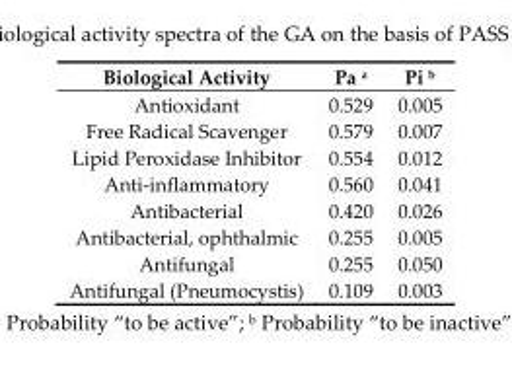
<table><thead><tr><td>Biological Activity</td><td>Pa <sup>a</sup></td><td>Pi <sup>b</sup></td></tr></thead><tbody><tr><td>Antioxidant</td><td>0.529</td><td>0.005</td></tr><tr><td>Free Radical Scavenger</td><td>0.579</td><td>0.007</td></tr><tr><td>Lipid Peroxidase Inhibitor</td><td>0.554</td><td>0.012</td></tr><tr><td>Anti‐inflammatory</td><td>0.560</td><td>0.041</td></tr><tr><td>Antibacterial</td><td>0.420</td><td>0.026</td></tr><tr><td>Antibacterial, ophthalmic</td><td>0.255</td><td>0.005</td></tr><tr><td>Antifungal</td><td>0.255</td><td>0.050</td></tr><tr><td>Antifungal (Pneumocystis)</td><td>0.109</td><td>0.003</td></tr></tbody></table>